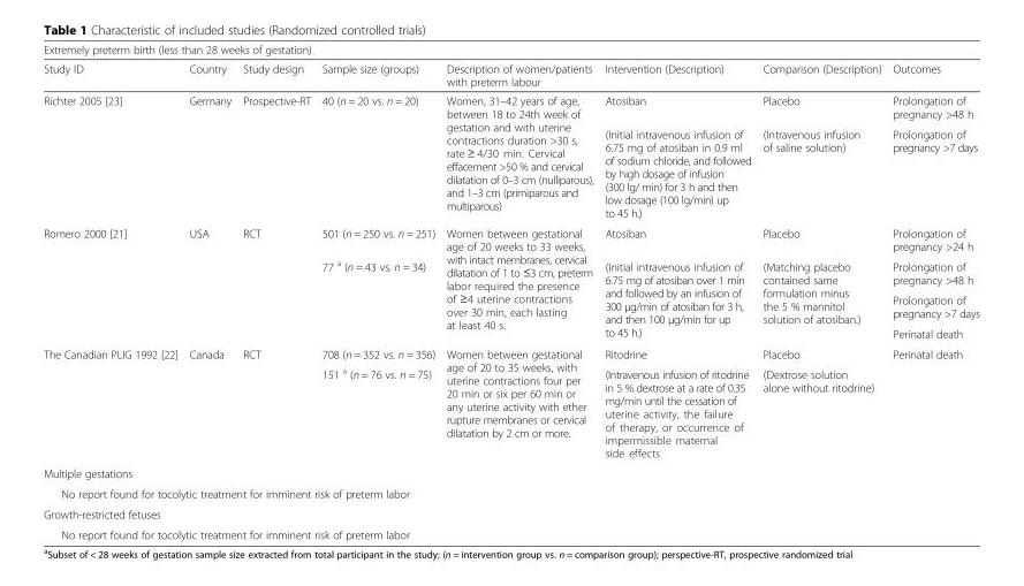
<table><thead><tr><td colspan="8">Extremely preterm birth (less than 28 weeks of gestation)</td></tr><tr><td>Study ID</td><td>Country</td><td>Study design</td><td>Sample size (groups)</td><td>Description of women/patients with preterm labour</td><td>Intervention (Description)</td><td>Comparison (Description)</td><td>Outcomes</td></tr></thead><tbody><tr><td rowspan="2">Richter 2005 [23]</td><td rowspan="2">Germany</td><td rowspan="2">Prospective-RT</td><td rowspan="2">40 (n = 20 vs. n = 20)</td><td rowspan="2">Women, 31–42 years of age, between 18 to 24th week of gestation and with uterine contractions duration &gt;30 s, rate ≥ 4/30 min. Cervical effacement &gt;50 % and cervical dilatation of 0–3 cm (nulliparous), and 1–3 cm (primiparous and multiparous)</td><td>Atosiban</td><td>Placebo</td><td>Prolongation of pregnancy &gt;48 h</td></tr><tr><td>(Initial intravenous infusion of 6.75 mg of atosiban in 0.9 ml of sodium chloride, and followed by high dosage of infusion (300 lg/ min) for 3 h and then low dosage (100 lg/min) up to 45 h.)</td><td>(Intravenous infusion of saline solution)</td><td>Prolongation of pregnancy &gt;7 days</td></tr><tr><td rowspan="4">Romero 2000 [21]</td><td rowspan="4">USA</td><td rowspan="4">RCT</td><td>501 (n = 250 vs. n = 251)</td><td rowspan="4">Women between gestational age of 20 weeks to 33 weeks, with intact membranes, cervical dilatation of 1 to ≤3 cm, preterm labor required the presence of ≥4 uterine contractions over 30 min, each lasting at least 40 s.</td><td>Atosiban</td><td>Placebo</td><td>Prolongation of pregnancy &gt;24 h</td></tr><tr><td rowspan="3">77 <sup>a</sup> (n = 43 vs. n = 34)</td><td rowspan="3">(Initial intravenous infusion of 6.75 mg of atosiban over 1 min and followed by an infusion of 300 μg/min of atosiban for 3 h, and then 100 μg/min for up to 45 h.)</td><td rowspan="3">(Matching placebo contained same formulation minus the 5 % mannitol solution of atosiban.)</td><td>Prolongation of pregnancy &gt;48 h</td></tr><tr><td>Prolongation of pregnancy &gt;7 days</td></tr><tr><td>Perinatal death</td></tr><tr><td rowspan="2">The Canadian PLIG 1992 [22]</td><td rowspan="2">Canada</td><td rowspan="2">RCT</td><td>708 (n = 352 vs. n = 356)</td><td rowspan="2">Women between gestational age of 20 to 35 weeks, with uterine contractions four per 20 min or six per 60 min or any uterine activity with ether rupture membranes or cervical dilatation by 2 cm or more.</td><td>Ritodrine</td><td>Placebo</td><td rowspan="2">Perinatal death</td></tr><tr><td>151 <sup>a</sup> (n = 76 vs. n = 75)</td><td>(Intravenous infusion of ritodrine in 5 % dextrose at a rate of 0.35 mg/min until the cessation of uterine activity, the failure of therapy, or occurrence of impermissible maternal side effects</td><td>(Dextrose solution alone without ritodrine)</td></tr><tr><td colspan="8">Multiple gestations</td></tr><tr><td colspan="8">No report found for tocolytic treatment for imminent risk of preterm labor</td></tr><tr><td colspan="8">Growth-restricted fetuses</td></tr><tr><td colspan="8">No report found for tocolytic treatment for imminent risk of preterm labor</td></tr></tbody></table>